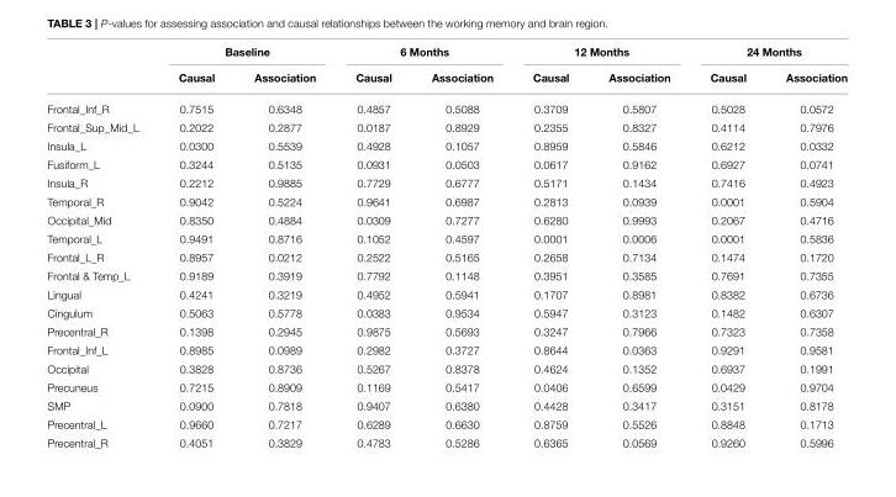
<table><thead><tr><td rowspan="2"></td><td colspan="2">Baseline</td><td colspan="2">6 Months</td><td colspan="2">12 Months</td><td colspan="2">24 Months</td></tr><tr><td>Causal</td><td>Association</td><td>Causal</td><td>Association</td><td>Causal</td><td>Association</td><td>Causal</td><td>Association</td></tr></thead><tbody><tr><td>Frontal_Inf_R</td><td>0.7515</td><td>0.6348</td><td>0.4857</td><td>0.5088</td><td>0.3709</td><td>0.5807</td><td>0.5028</td><td>0.0572</td></tr><tr><td>Frontal_Sup_Mid_L</td><td>0.2022</td><td>0.2877</td><td>0.0187</td><td>0.8929</td><td>0.2355</td><td>0.8327</td><td>0.4114</td><td>0.7976</td></tr><tr><td>Insula_L</td><td>0.0300</td><td>0.5539</td><td>0.4928</td><td>0.1057</td><td>0.8959</td><td>0.5846</td><td>0.6212</td><td>0.0332</td></tr><tr><td>Fusiform_L</td><td>0.3244</td><td>0.5135</td><td>0.0931</td><td>0.0503</td><td>0.0617</td><td>0.9162</td><td>0.6927</td><td>0.0741</td></tr><tr><td>Insula_R</td><td>0.2212</td><td>0.9885</td><td>0.7729</td><td>0.6777</td><td>0.5171</td><td>0.1434</td><td>0.7416</td><td>0.4923</td></tr><tr><td>Temporal_R</td><td>0.9042</td><td>0.5224</td><td>0.9641</td><td>0.6987</td><td>0.2813</td><td>0.0939</td><td>0.0001</td><td>0.5904</td></tr><tr><td>Occipital_Mid</td><td>0.8350</td><td>0.4884</td><td>0.0309</td><td>0.7277</td><td>0.6280</td><td>0.9993</td><td>0.2067</td><td>0.4716</td></tr><tr><td>Temporal_L</td><td>0.9491</td><td>0.8716</td><td>0.1052</td><td>0.4597</td><td>0.0001</td><td>0.0006</td><td>0.0001</td><td>0.5836</td></tr><tr><td>Frontal_L_R</td><td>0.8957</td><td>0.0212</td><td>0.2522</td><td>0.5165</td><td>0.2658</td><td>0.7134</td><td>0.1474</td><td>0.1720</td></tr><tr><td>Frontal &amp; Temp_L</td><td>0.9189</td><td>0.3919</td><td>0.7792</td><td>0.1148</td><td>0.3951</td><td>0.3585</td><td>0.7691</td><td>0.7355</td></tr><tr><td>Lingual</td><td>0.4241</td><td>0.3219</td><td>0.4952</td><td>0.5941</td><td>0.1707</td><td>0.8981</td><td>0.8382</td><td>0.6736</td></tr><tr><td>Cingulum</td><td>0.5063</td><td>0.5778</td><td>0.0383</td><td>0.9534</td><td>0.5947</td><td>0.3123</td><td>0.1482</td><td>0.6307</td></tr><tr><td>Precentral_R</td><td>0.1398</td><td>0.2945</td><td>0.9875</td><td>0.5693</td><td>0.3247</td><td>0.7966</td><td>0.7323</td><td>0.7358</td></tr><tr><td>Frontal_Inf_L</td><td>0.8985</td><td>0.0989</td><td>0.2982</td><td>0.3727</td><td>0.8644</td><td>0.0363</td><td>0.9291</td><td>0.9581</td></tr><tr><td>Occipital</td><td>0.3828</td><td>0.8736</td><td>0.5267</td><td>0.8378</td><td>0.4624</td><td>0.1352</td><td>0.6937</td><td>0.1991</td></tr><tr><td>Precuneus</td><td>0.7215</td><td>0.8909</td><td>0.1169</td><td>0.5417</td><td>0.0406</td><td>0.6599</td><td>0.0429</td><td>0.9704</td></tr><tr><td>SMP</td><td>0.0900</td><td>0.7818</td><td>0.9407</td><td>0.6380</td><td>0.4428</td><td>0.3417</td><td>0.3151</td><td>0.8178</td></tr><tr><td>Precentral_L</td><td>0.9660</td><td>0.7217</td><td>0.6289</td><td>0.6630</td><td>0.8759</td><td>0.5526</td><td>0.8848</td><td>0.1713</td></tr><tr><td>Precentral_R</td><td>0.4051</td><td>0.3829</td><td>0.4783</td><td>0.5286</td><td>0.6365</td><td>0.0569</td><td>0.9260</td><td>0.5996</td></tr></tbody></table>